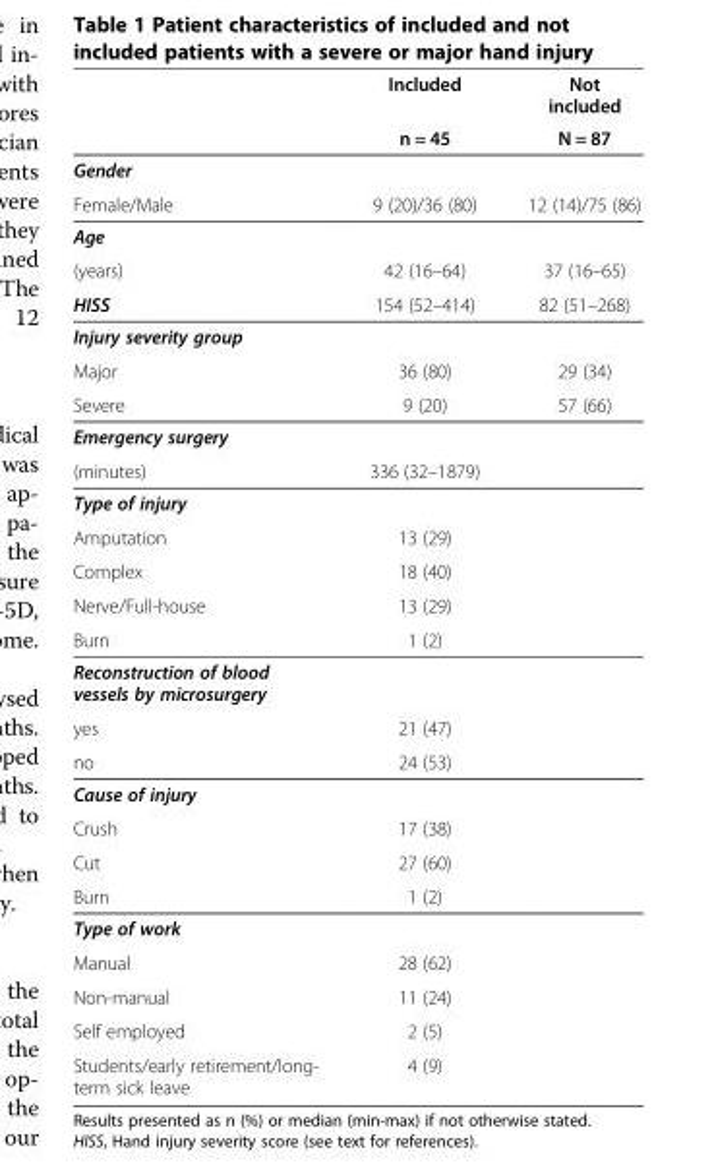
<table><thead><tr><td rowspan="2"></td><td rowspan="2">Included n = 45</td><td rowspan="2">Not included N = 87</td></tr><tr></tr></thead><tbody><tr><td colspan="3">Gender</td></tr><tr><td>Female/Male</td><td>9 (20)/36 (80)</td><td>12 (14)/75 (86)</td></tr><tr><td colspan="3">Age</td></tr><tr><td>(years)</td><td>42 (16–64)</td><td>37 (16–65)</td></tr><tr><td>HISS</td><td>154 (52–414)</td><td>82 (51–268)</td></tr><tr><td colspan="3">Injury severity group</td></tr><tr><td>Major</td><td>36 (80)</td><td>29 (34)</td></tr><tr><td>Severe</td><td>9 (20)</td><td>57 (66)</td></tr><tr><td colspan="3">Emergency surgery</td></tr><tr><td>(minutes)</td><td>336 (32–1879)</td><td></td></tr><tr><td colspan="3">Type of injury</td></tr><tr><td>Amputation</td><td>13 (29)</td><td></td></tr><tr><td>Complex</td><td>18 (40)</td><td></td></tr><tr><td>Nerve/Full-house</td><td>13 (29)</td><td></td></tr><tr><td>Burn</td><td>1 (2)</td><td></td></tr><tr><td colspan="3">Reconstruction of blood vessels by microsurgery</td></tr><tr><td>yes</td><td>21 (47)</td><td></td></tr><tr><td>no</td><td>24 (53)</td><td></td></tr><tr><td colspan="3">Cause of injury</td></tr><tr><td>Crush</td><td>17 (38)</td><td></td></tr><tr><td>Cut</td><td>27 (60)</td><td></td></tr><tr><td>Burn</td><td>1 (2)</td><td></td></tr><tr><td colspan="3">Type of work</td></tr><tr><td>Manual</td><td>28 (62)</td><td></td></tr><tr><td>Non-manual</td><td>11 (24)</td><td></td></tr><tr><td>Self employed</td><td>2 (5)</td><td></td></tr><tr><td>Students/early retirement/long- term sick leave</td><td>4 (9)</td><td></td></tr></tbody></table>